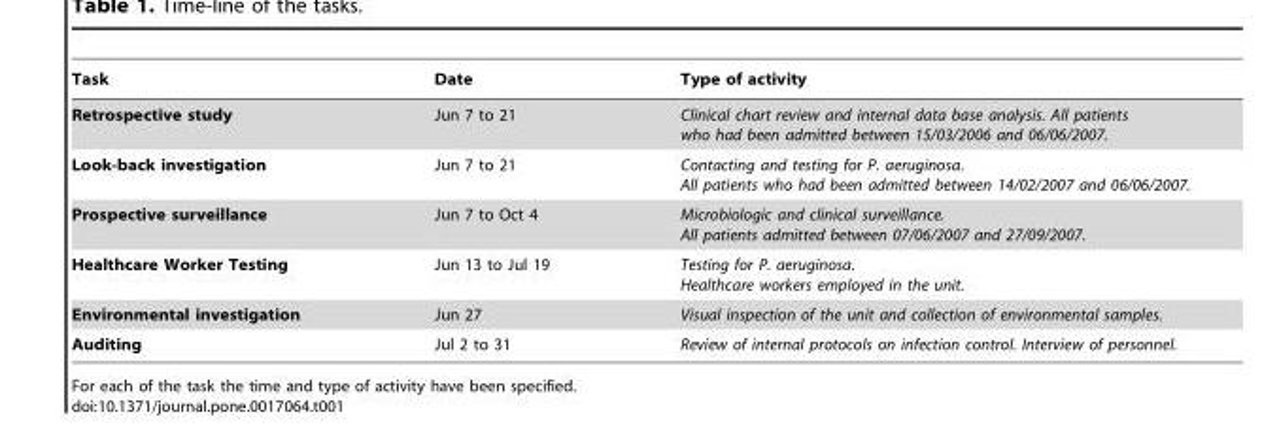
<table><thead><tr><td>Task</td><td>Date</td><td>Type of activity</td></tr></thead><tbody><tr><td>Retrospective study</td><td>Jun 7 to 21</td><td>Clinical chart review and internal data base analysis. All patients who had been admitted between 15/03/2006 and 06/06/2007.</td></tr><tr><td>Look-back investigation</td><td>Jun 7 to 21</td><td>Contacting and testing for P. aeruginosa. All patients who had been admitted between 14/02/2007 and 06/06/2007.</td></tr><tr><td>Prospective surveillance</td><td>Jun 7 to Oct 4</td><td>Microbiologic and clinical surveillance. All patients admitted between 07/06/2007 and 27/09/2007.</td></tr><tr><td>Healthcare Worker Testing</td><td>Jun 13 to Jul 19</td><td>Testing for P. aeruginosa. Healthcare workers employed in the unit.</td></tr><tr><td>Environmental investigation</td><td>Jun 27</td><td>Visual inspection of the unit and collection of environmental samples.</td></tr><tr><td>Auditing</td><td>Jul 2 to 31</td><td>Review of internal protocols on infection control. Interview of personnel.</td></tr></tbody></table>